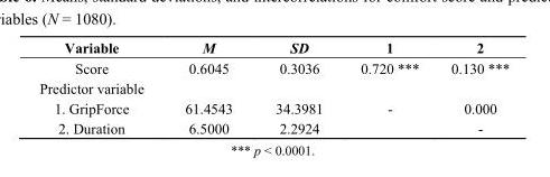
<table><thead><tr><td>Variable</td><td>M</td><td>SD</td><td>1</td><td>2</td></tr></thead><tbody><tr><td>Score</td><td>0.6045</td><td>0.3036</td><td>0.720 ***</td><td>0.130 ***</td></tr><tr><td colspan="5">Predictor variable</td></tr><tr><td>1. GripForce</td><td>61.4543</td><td>34.3981</td><td>-</td><td>0.000</td></tr><tr><td>2. Duration</td><td>6.5000</td><td>2.2924</td><td></td><td>-</td></tr></tbody></table>